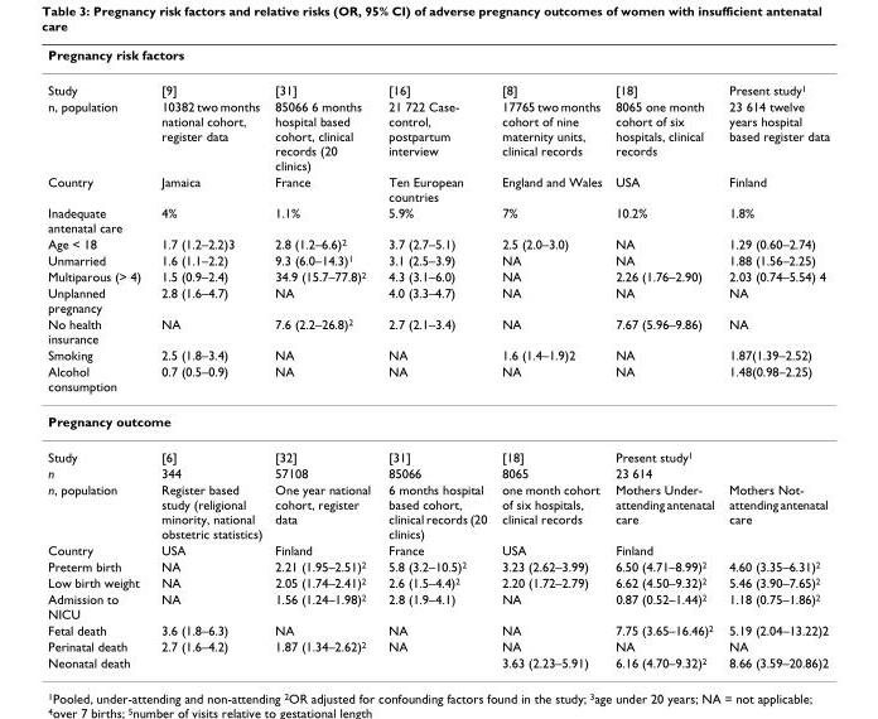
<table><thead><tr><td colspan="7">Pregnancy risk factors</td></tr><tr><td>Study</td><td>[9]</td><td>[31]</td><td>[16]</td><td>[8]</td><td>[18]</td><td>Present study<sup>1</sup></td></tr></thead><tbody><tr><td>n, population</td><td>10382 two months national cohort, register data</td><td>85066 6 months hospital based cohort, clinical records (20 clinics)</td><td>21 722 Case- control, postpartum interview</td><td>17765 two months cohort of nine maternity units, clinical records</td><td>8065 one month cohort of six hospitals, clinical records</td><td>23 614 twelve years hospital based register data</td></tr><tr><td>Country</td><td>Jamaica</td><td>France</td><td>Ten European countries</td><td>England and Wales</td><td>USA</td><td>Finland</td></tr><tr><td>Inadequate antenatal care</td><td>4%</td><td>1.1%</td><td>5.9%</td><td>7%</td><td>10.2%</td><td>1.8%</td></tr><tr><td>Age &lt; 18</td><td>1.7 (1.2–2.2)3</td><td>2.8 (1.2–6.6)<sup>2</sup></td><td>3.7 (2.7–5.1)</td><td>2.5 (2.0–3.0)</td><td>NA</td><td>1.29 (0.60–2.74)</td></tr><tr><td>Unmarried</td><td>1.6 (1.1–2.2)</td><td>9.3 (6.0–14.3)<sup>1</sup></td><td>3.1 (2.5–3.9)</td><td>NA</td><td>NA</td><td>1.88 (1.56–2.25)</td></tr><tr><td>Multiparous (&gt; 4)</td><td>1.5 (0.9–2.4)</td><td>34.9 (15.7–77.8)<sup>2</sup></td><td>4.3 (3.1–6.0)</td><td>NA</td><td>2.26 (1.76–2.90)</td><td>2.03 (0.74–5.54) 4</td></tr><tr><td>Unplanned pregnancy</td><td>2.8 (1.6–4.7)</td><td>NA</td><td>4.0 (3.3–4.7)</td><td>NA</td><td>NA</td><td>NA</td></tr><tr><td>No health insurance</td><td>NA</td><td>7.6 (2.2–26.8)<sup>2</sup></td><td>2.7 (2.1–3.4)</td><td>NA</td><td>7.67 (5.96–9.86)</td><td>NA</td></tr><tr><td>Smoking</td><td>2.5 (1.8–3.4)</td><td>NA</td><td>NA</td><td>1.6 (1.4–1.9)2</td><td>NA</td><td>1.87(1.39–2.52)</td></tr><tr><td>Alcohol consumption</td><td>0.7 (0.5–0.9)</td><td>NA</td><td>NA</td><td>NA</td><td>NA</td><td>1.48(0.98–2.25)</td></tr><tr><td colspan="7">Pregnancy outcome</td></tr><tr><td>Study</td><td>[6]</td><td>[32]</td><td>[31]</td><td>[18]</td><td>Present study<sup>1</sup></td><td></td></tr><tr><td>n</td><td>344</td><td>57108</td><td>85066</td><td>8065</td><td>23 614</td><td></td></tr><tr><td>n, population</td><td>Register based study (religional minority, national obstetric statistics)</td><td>One year national cohort, register data</td><td>6 months hospital based cohort, clinical records (20 clinics)</td><td>one month cohort of six hospitals, clinical records</td><td>Mothers Under- attending antenatal care</td><td>Mothers Not- attending antenatal care</td></tr><tr><td>Country</td><td>USA</td><td>Finland</td><td>France</td><td>USA</td><td>Finland</td><td></td></tr><tr><td>Preterm birth</td><td>NA</td><td>2.21 (1.95–2.51)<sup>2</sup></td><td>5.8 (3.2–10.5)<sup>2</sup></td><td>3.23 (2.62–3.99)</td><td>6.50 (4.71–8.99)<sup>2</sup></td><td>4.60 (3.35–6.31)<sup>2</sup></td></tr><tr><td>Low birth weight</td><td>NA</td><td>2.05 (1.74–2.41)<sup>2</sup></td><td>2.6 (1.5–4.4)<sup>2</sup></td><td>2.20 (1.72–2.79)</td><td>6.62 (4.50–9.32)<sup>2</sup></td><td>5.46 (3.90–7.65)<sup>2</sup></td></tr><tr><td>Admission to NICU</td><td>NA</td><td>1.56 (1.24–1.98)<sup>2</sup></td><td>2.8 (1.9–4.1)</td><td>NA</td><td>0.87 (0.52–1.44)<sup>2</sup></td><td>1.18 (0.75–1.86)<sup>2</sup></td></tr><tr><td>Fetal death</td><td>3.6 (1.8–6.3)</td><td>NA</td><td>NA</td><td>NA</td><td>7.75 (3.65–16.46)<sup>2</sup></td><td>5.19 (2.04–13.22)2</td></tr><tr><td>Perinatal death</td><td>2.7 (1.6–4.2)</td><td>1.87 (1.34–2.62)<sup>2</sup></td><td>NA</td><td>NA</td><td>NA</td><td>NA</td></tr><tr><td>Neonatal death</td><td></td><td></td><td></td><td>3.63 (2.23–5.91)</td><td>6.16 (4.70–9.32)<sup>2</sup></td><td>8.66 (3.59–20.86)2</td></tr></tbody></table>